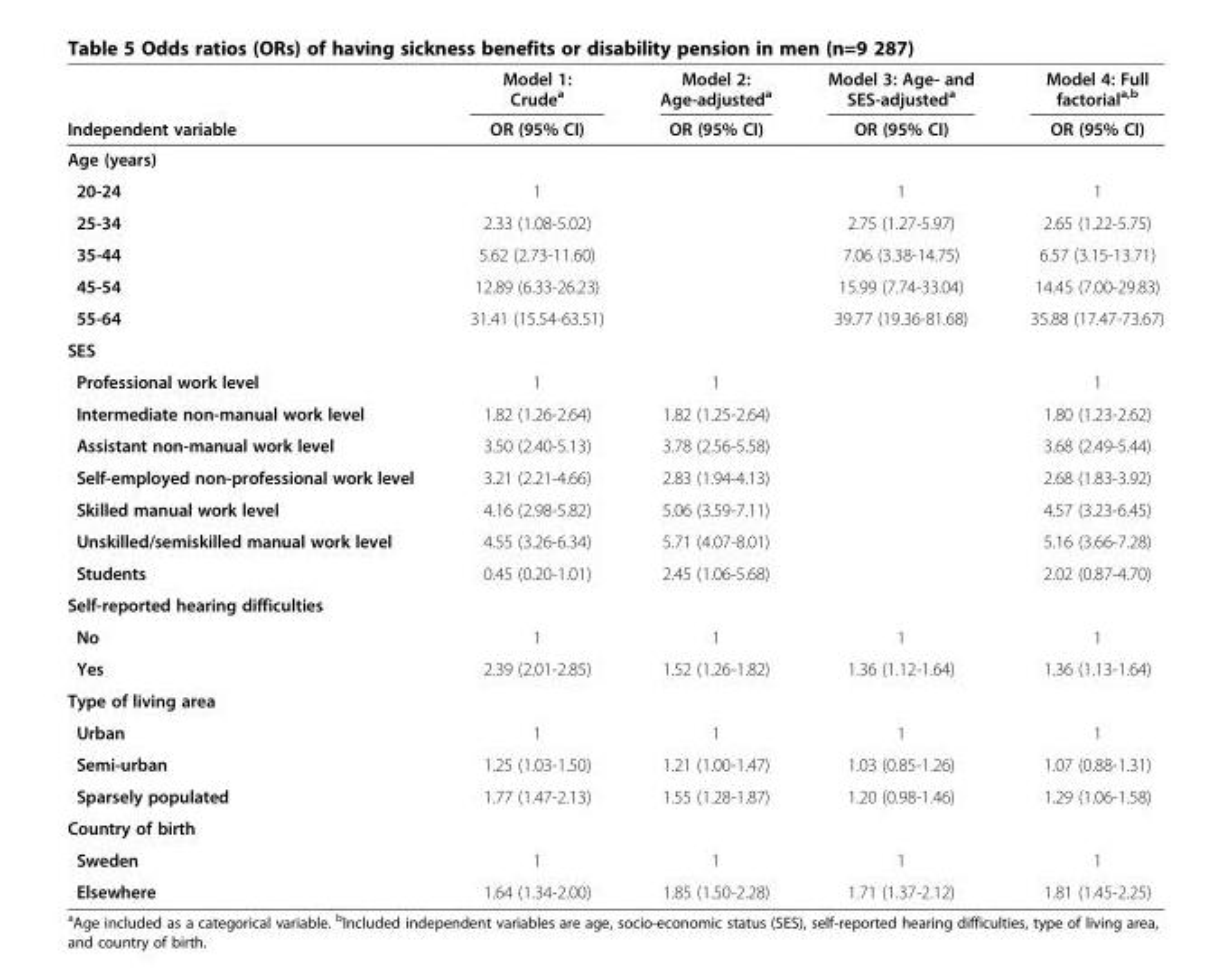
<table><thead><tr><td rowspan="2">Independent variable</td><td rowspan="2">Model 1: Crude<sup>a</sup> OR (95% CI)</td><td rowspan="2">Model 2: Age-adjusted<sup>a</sup> OR (95% CI)</td><td rowspan="2">Model 3: Age- and SES-adjusted<sup>a</sup> OR (95% CI)</td><td rowspan="2">Model 4: Full factorial<sup>a,b</sup> OR (95% CI)</td></tr><tr></tr></thead><tbody><tr><td colspan="5">Age (years)</td></tr><tr><td>20-24</td><td>1</td><td></td><td>1</td><td>1</td></tr><tr><td>25-34</td><td>2.33 (1.08-5.02)</td><td></td><td>2.75 (1.27-5.97)</td><td>2.65 (1.22-5.75)</td></tr><tr><td>35-44</td><td>5.62 (2.73-11.60)</td><td></td><td>7.06 (3.38-14.75)</td><td>6.57 (3.15-13.71)</td></tr><tr><td>45-54</td><td>12.89 (6.33-26.23)</td><td></td><td>15.99 (7.74-33.04)</td><td>14.45 (7.00-29.83)</td></tr><tr><td>55-64</td><td>31.41 (15.54-63.51)</td><td></td><td>39.77 (19.36-81.68)</td><td>35.88 (17.47-73.67)</td></tr><tr><td colspan="5">SES</td></tr><tr><td>Professional work level</td><td>1</td><td>1</td><td></td><td>1</td></tr><tr><td>Intermediate non-manual work level</td><td>1.82 (1.26-2.64)</td><td>1.82 (1.25-2.64)</td><td></td><td>1.80 (1.23-2.62)</td></tr><tr><td>Assistant non-manual work level</td><td>3.50 (2.40-5.13)</td><td>3.78 (2.56-5.58)</td><td></td><td>3.68 (2.49-5.44)</td></tr><tr><td>Self-employed non-professional work level</td><td>3.21 (2.21-4.66)</td><td>2.83 (1.94-4.13)</td><td></td><td>2.68 (1.83-3.92)</td></tr><tr><td>Skilled manual work level</td><td>4.16 (2.98-5.82)</td><td>5.06 (3.59-7.11)</td><td></td><td>4.57 (3.23-6.45)</td></tr><tr><td>Unskilled/semiskilled manual work level</td><td>4.55 (3.26-6.34)</td><td>5.71 (4.07-8.01)</td><td></td><td>5.16 (3.66-7.28)</td></tr><tr><td>Students</td><td>0.45 (0.20-1.01)</td><td>2.45 (1.06-5.68)</td><td></td><td>2.02 (0.87-4.70)</td></tr><tr><td colspan="5">Self-reported hearing difficulties</td></tr><tr><td>No</td><td>1</td><td>1</td><td>1</td><td>1</td></tr><tr><td>Yes</td><td>2.39 (2.01-2.85)</td><td>1.52 (1.26-1.82)</td><td>1.36 (1.12-1.64)</td><td>1.36 (1.13-1.64)</td></tr><tr><td colspan="5">Type of living area</td></tr><tr><td>Urban</td><td>1</td><td>1</td><td>1</td><td>1</td></tr><tr><td>Semi-urban</td><td>1.25 (1.03-1.50)</td><td>1.21 (1.00-1.47)</td><td>1.03 (0.85-1.26)</td><td>1.07 (0.88-1.31)</td></tr><tr><td>Sparsely populated</td><td>1.77 (1.47-2.13)</td><td>1.55 (1.28-1.87)</td><td>1.20 (0.98-1.46)</td><td>1.29 (1.06-1.58)</td></tr><tr><td colspan="5">Country of birth</td></tr><tr><td>Sweden</td><td>1</td><td>1</td><td>1</td><td>1</td></tr><tr><td>Elsewhere</td><td>1.64 (1.34-2.00)</td><td>1.85 (1.50-2.28)</td><td>1.71 (1.37-2.12)</td><td>1.81 (1.45-2.25)</td></tr></tbody></table>